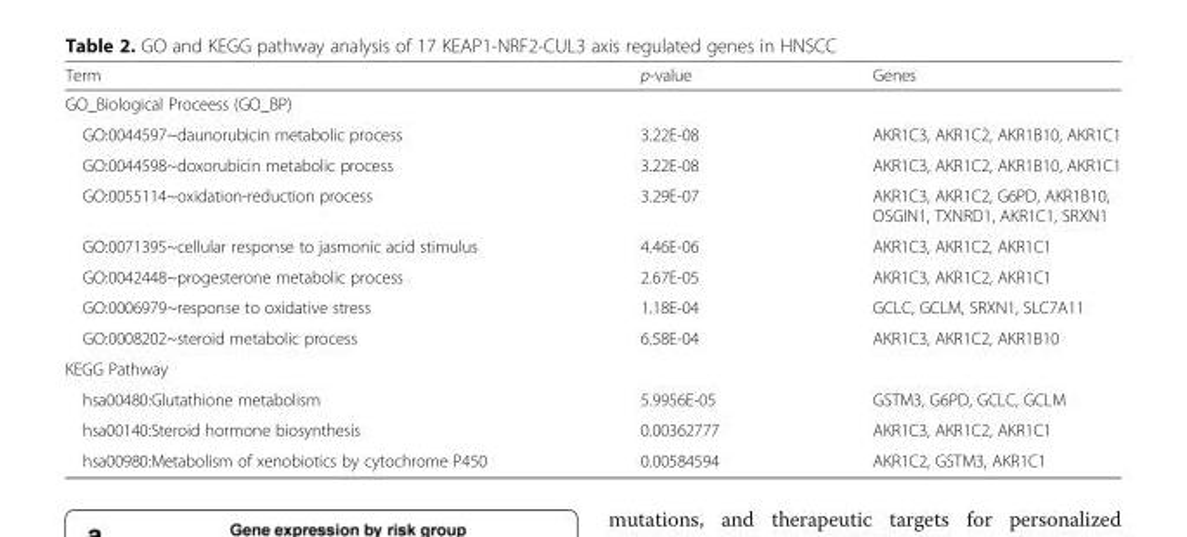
<table><thead><tr><td>Term</td><td>p-value</td><td>Genes</td></tr></thead><tbody><tr><td colspan="3">GO_Biological Proceess (GO_BP)</td></tr><tr><td>GO:0044597~daunorubicin metabolic process</td><td>3.22E-08</td><td>AKR1C3, AKR1C2, AKR1B10, AKR1C1</td></tr><tr><td>GO:0044598~doxorubicin metabolic process</td><td>3.22E-08</td><td>AKR1C3, AKR1C2, AKR1B10, AKR1C1</td></tr><tr><td>GO:0055114~oxidation-reduction process</td><td>3.29E-07</td><td>AKR1C3, AKR1C2, G6PD, AKR1B10, OSGIN1, TXNRD1, AKR1C1, SRXN1</td></tr><tr><td>GO:0071395~cellular response to jasmonic acid stimulus</td><td>4.46E-06</td><td>AKR1C3, AKR1C2, AKR1C1</td></tr><tr><td>GO:0042448~progesterone metabolic process</td><td>2.67E-05</td><td>AKR1C3, AKR1C2, AKR1C1</td></tr><tr><td>GO:0006979~response to oxidative stress</td><td>1.18E-04</td><td>GCLC, GCLM, SRXN1, SLC7A11</td></tr><tr><td>GO:0008202~steroid metabolic process</td><td>6.58E-04</td><td>AKR1C3, AKR1C2, AKR1B10</td></tr><tr><td colspan="3">KEGG Pathway</td></tr><tr><td>hsa00480:Glutathione metabolism</td><td>5.9956E-05</td><td>GSTM3, G6PD, GCLC, GCLM</td></tr><tr><td>hsa00140:Steroid hormone biosynthesis</td><td>0.00362777</td><td>AKR1C3, AKR1C2, AKR1C1</td></tr><tr><td>hsa00980:Metabolism of xenobiotics by cytochrome P450</td><td>0.00584594</td><td>AKR1C2, GSTM3, AKR1C1</td></tr></tbody></table>